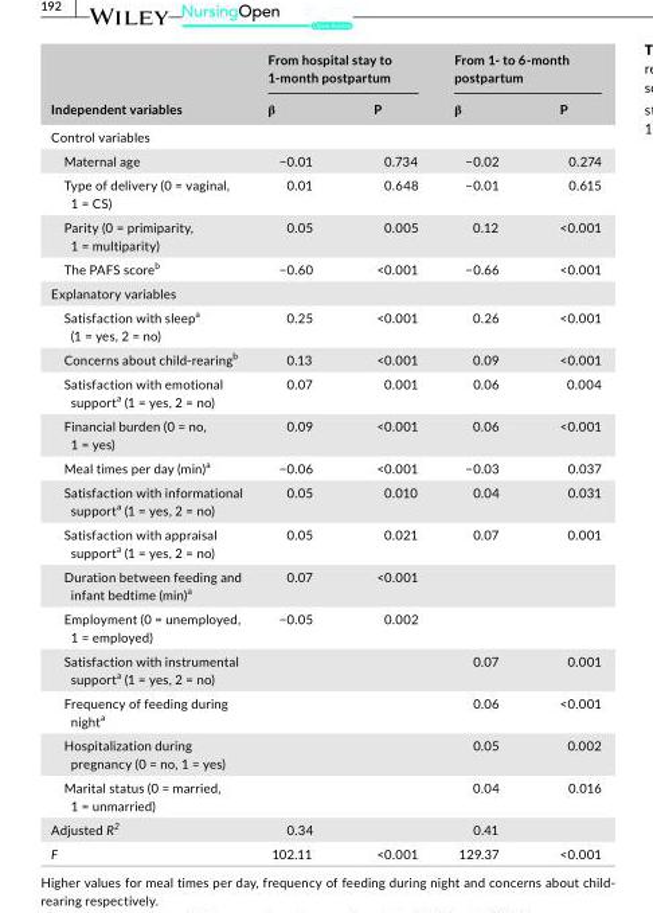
<table><thead><tr><td rowspan="2">Independent variables</td><td colspan="2">From hospital stay to 1- month postpartum</td><td colspan="2">From 1- to 6- month postpartum</td></tr><tr><td>β</td><td>P</td><td>β</td><td>P</td></tr></thead><tbody><tr><td colspan="5">Control variables</td></tr><tr><td>Maternal age</td><td>−0.01</td><td>0.734</td><td>−0.02</td><td>0.274</td></tr><tr><td>Type of delivery (0 = vaginal, 1 = CS)</td><td>0.01</td><td>0.648</td><td>−0.01</td><td>0.615</td></tr><tr><td>Parity (0 = primiparity, 1 = multiparity)</td><td>0.05</td><td>0.005</td><td>0.12</td><td>&lt;0.001</td></tr><tr><td>The PAFS score<sup>b</sup></td><td>−0.60</td><td>&lt;0.001</td><td>−0.66</td><td>&lt;0.001</td></tr><tr><td colspan="5">Explanatory variables</td></tr><tr><td>Satisfaction with sleep<sup>a</sup> (1 = yes, 2 = no)</td><td>0.25</td><td>&lt;0.001</td><td>0.26</td><td>&lt;0.001</td></tr><tr><td>Concerns about child- rearing<sup>b</sup></td><td>0.13</td><td>&lt;0.001</td><td>0.09</td><td>&lt;0.001</td></tr><tr><td>Satisfaction with emotional support<sup>a</sup> (1 = yes, 2 = no)</td><td>0.07</td><td>0.001</td><td>0.06</td><td>0.004</td></tr><tr><td>Financial burden (0 = no, 1 = yes)</td><td>0.09</td><td>&lt;0.001</td><td>0.06</td><td>&lt;0.001</td></tr><tr><td>Meal times per day (min)<sup>a</sup></td><td>−0.06</td><td>&lt;0.001</td><td>−0.03</td><td>0.037</td></tr><tr><td>Satisfaction with informational support<sup>a</sup> (1 = yes, 2 = no)</td><td>0.05</td><td>0.010</td><td>0.04</td><td>0.031</td></tr><tr><td>Satisfaction with appraisal support<sup>a</sup> (1 = yes, 2 = no)</td><td>0.05</td><td>0.021</td><td>0.07</td><td>0.001</td></tr><tr><td>Duration between feeding and infant bedtime (min)<sup>a</sup></td><td>0.07</td><td>&lt;0.001</td><td></td><td></td></tr><tr><td>Employment (0 = unemployed, 1 = employed)</td><td>−0.05</td><td>0.002</td><td></td><td></td></tr><tr><td>Satisfaction with instrumental support<sup>a</sup> (1 = yes, 2 = no)</td><td></td><td></td><td>0.07</td><td>0.001</td></tr><tr><td>Frequency of feeding during night<sup>a</sup></td><td></td><td></td><td>0.06</td><td>&lt;0.001</td></tr><tr><td>Hospitalization during pregnancy (0 = no, 1 = yes)</td><td></td><td></td><td>0.05</td><td>0.002</td></tr><tr><td>Marital status (0 = married, 1 = unmarried)</td><td></td><td></td><td>0.04</td><td>0.016</td></tr><tr><td>Adjusted R<sup>2</sup></td><td>0.34</td><td></td><td>0.41</td><td></td></tr><tr><td>F</td><td>102.11</td><td>&lt;0.001</td><td>129.37</td><td>&lt;0.001</td></tr></tbody></table>